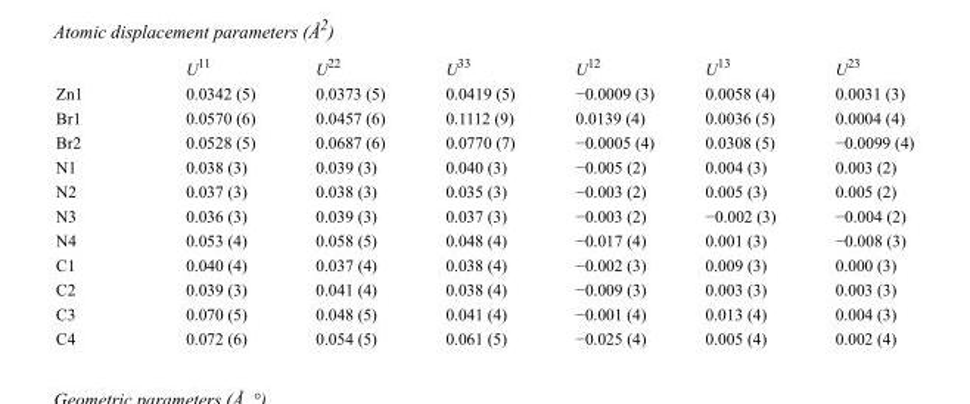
<table><thead><tr><td></td><td>U<sup>11</sup></td><td>U<sup>22</sup></td><td>U<sup>33</sup></td><td>U<sup>12</sup></td><td>U<sup>13</sup></td><td>U<sup>23</sup></td></tr></thead><tbody><tr><td>Zn1</td><td>0.0342 (5)</td><td>0.0373 (5)</td><td>0.0419 (5)</td><td>−0.0009 (3)</td><td>0.0058 (4)</td><td>0.0031 (3)</td></tr><tr><td>Br1</td><td>0.0570 (6)</td><td>0.0457 (6)</td><td>0.1112 (9)</td><td>0.0139 (4)</td><td>0.0036 (5)</td><td>0.0004 (4)</td></tr><tr><td>Br2</td><td>0.0528 (5)</td><td>0.0687 (6)</td><td>0.0770 (7)</td><td>−0.0005 (4)</td><td>0.0308 (5)</td><td>−0.0099 (4)</td></tr><tr><td>N1</td><td>0.038 (3)</td><td>0.039 (3)</td><td>0.040 (3)</td><td>−0.005 (2)</td><td>0.004 (3)</td><td>0.003 (2)</td></tr><tr><td>N2</td><td>0.037 (3)</td><td>0.038 (3)</td><td>0.035 (3)</td><td>−0.003 (2)</td><td>0.005 (3)</td><td>0.005 (2)</td></tr><tr><td>N3</td><td>0.036 (3)</td><td>0.039 (3)</td><td>0.037 (3)</td><td>−0.003 (2)</td><td>−0.002 (3)</td><td>−0.004 (2)</td></tr><tr><td>N4</td><td>0.053 (4)</td><td>0.058 (5)</td><td>0.048 (4)</td><td>−0.017 (4)</td><td>0.001 (3)</td><td>−0.008 (3)</td></tr><tr><td>C1</td><td>0.040 (4)</td><td>0.037 (4)</td><td>0.038 (4)</td><td>−0.002 (3)</td><td>0.009 (3)</td><td>0.000 (3)</td></tr><tr><td>C2</td><td>0.039 (3)</td><td>0.041 (4)</td><td>0.038 (4)</td><td>−0.009 (3)</td><td>0.003 (3)</td><td>0.003 (3)</td></tr><tr><td>C3</td><td>0.070 (5)</td><td>0.048 (5)</td><td>0.041 (4)</td><td>−0.001 (4)</td><td>0.013 (4)</td><td>0.004 (3)</td></tr><tr><td>C4</td><td>0.072 (6)</td><td>0.054 (5)</td><td>0.061 (5)</td><td>−0.025 (4)</td><td>0.005 (4)</td><td>0.002 (4)</td></tr></tbody></table>